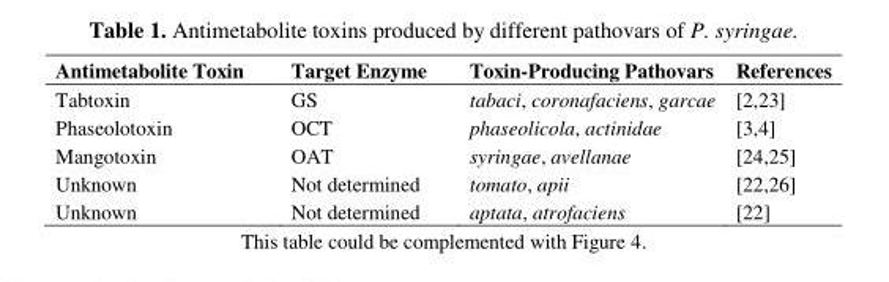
<table><thead><tr><td>Antimetabolite Toxin</td><td>Target Enzyme</td><td>Toxin-Producing Pathovars</td><td>References</td></tr></thead><tbody><tr><td>Tabtoxin</td><td>GS</td><td>tabaci, coronafaciens, garcae</td><td>[2,23]</td></tr><tr><td>Phaseolotoxin</td><td>OCT</td><td>phaseolicola, actinidae</td><td>[3,4]</td></tr><tr><td>Mangotoxin</td><td>OAT</td><td>syringae, avellanae</td><td>[24,25]</td></tr><tr><td>Unknown</td><td>Not determined</td><td>tomato, apii</td><td>[22,26]</td></tr><tr><td>Unknown</td><td>Not determined</td><td>aptata, atrofaciens</td><td>[22]</td></tr></tbody></table>